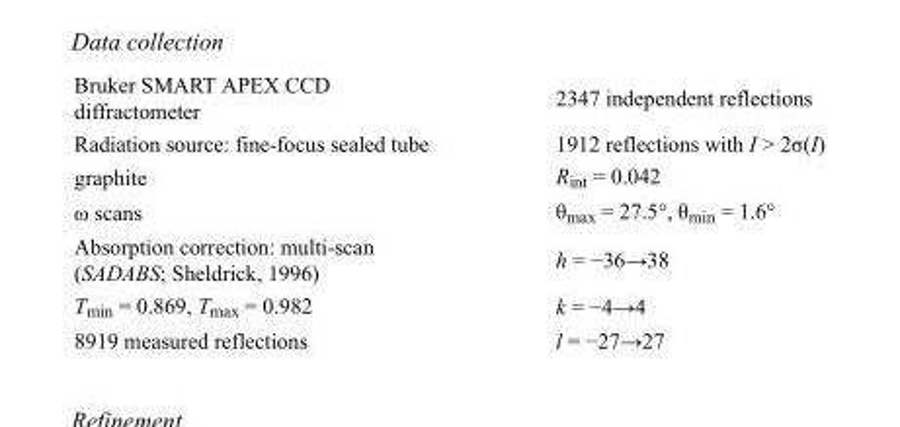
<table><tbody><tr><td>Bruker SMART APEX CCD diffractometer</td><td>2347 independent reflections</td></tr><tr><td>Radiation source: fine-focus sealed tube</td><td>1912 reflections with I &gt; 2σ(I)</td></tr><tr><td>graphite</td><td>R<sub>int</sub> = 0.042</td></tr><tr><td>ω scans</td><td>θ<sub>max</sub> = 27.5°, θ<sub>min</sub> = 1.6°</td></tr><tr><td>Absorption correction: multi-scan (SADABS; Sheldrick, 1996)</td><td>h = −36→38</td></tr><tr><td>T<sub>min</sub> = 0.869, T<sub>max</sub> = 0.982</td><td>k = −4→4</td></tr><tr><td>8919 measured reflections</td><td>l = −27→27</td></tr></tbody></table>